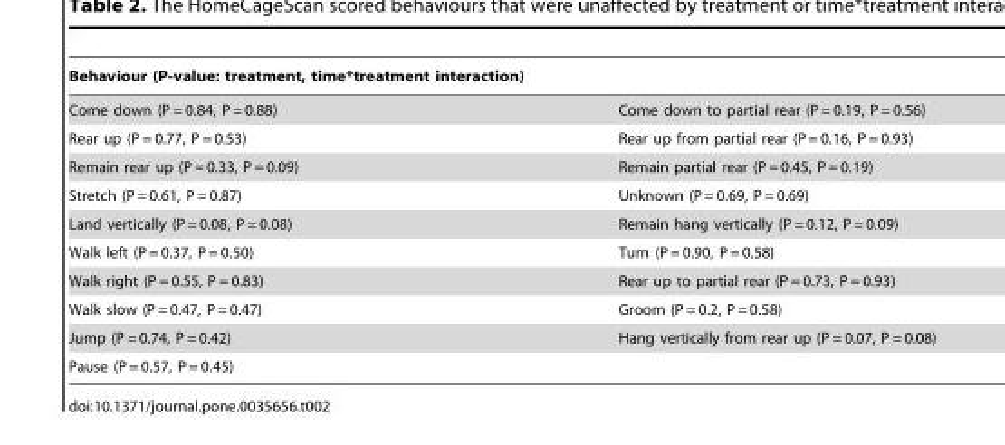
<table><thead><tr><td colspan="2">Behaviour (P-value: treatment, time*treatment interaction)</td></tr><tr><td>Come down (P = 0.84, P = 0.88)</td><td>Come down to partial rear (P = 0.19, P = 0.56)</td></tr></thead><tbody><tr><td>Rear up (P = 0.77, P = 0.53)</td><td>Rear up from partial rear (P = 0.16, P = 0.93)</td></tr><tr><td>Remain rear up (P = 0.33, P = 0.09)</td><td>Remain partial rear (P = 0.45, P = 0.19)</td></tr><tr><td>Stretch (P = 0.61, P = 0.87)</td><td>Unknown (P = 0.69, P = 0.69)</td></tr><tr><td>Land vertically (P = 0.08, P = 0.08)</td><td>Remain hang vertically (P = 0.12, P = 0.09)</td></tr><tr><td>Walk left (P = 0.37, P = 0.50)</td><td>Turn (P = 0.90, P = 0.58)</td></tr><tr><td>Walk right (P = 0.55, P = 0.83)</td><td>Rear up to partial rear (P = 0.73, P = 0.93)</td></tr><tr><td>Walk slow (P = 0.47, P = 0.47)</td><td>Groom (P = 0.2, P = 0.58)</td></tr><tr><td>Jump (P = 0.74, P = 0.42)</td><td>Hang vertically from rear up (P = 0.07, P = 0.08)</td></tr><tr><td>Pause (P = 0.57, P = 0.45)</td><td></td></tr></tbody></table>